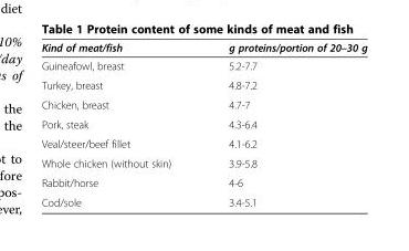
<table><thead><tr><td>Kind of meat/fish</td><td>g proteins/portion of 20–30 g</td></tr></thead><tbody><tr><td>Guineafowl, breast</td><td>5.2-7.7</td></tr><tr><td>Turkey, breast</td><td>4.8-7.2</td></tr><tr><td>Chicken, breast</td><td>4.7-7</td></tr><tr><td>Pork, steak</td><td>4.3-6.4</td></tr><tr><td>Veal/steer/beef fillet</td><td>4.1-6.2</td></tr><tr><td>Whole chicken (without skin)</td><td>3.9-5.8</td></tr><tr><td>Rabbit/horse</td><td>4-6</td></tr><tr><td>Cod/sole</td><td>3.4-5.1</td></tr></tbody></table>